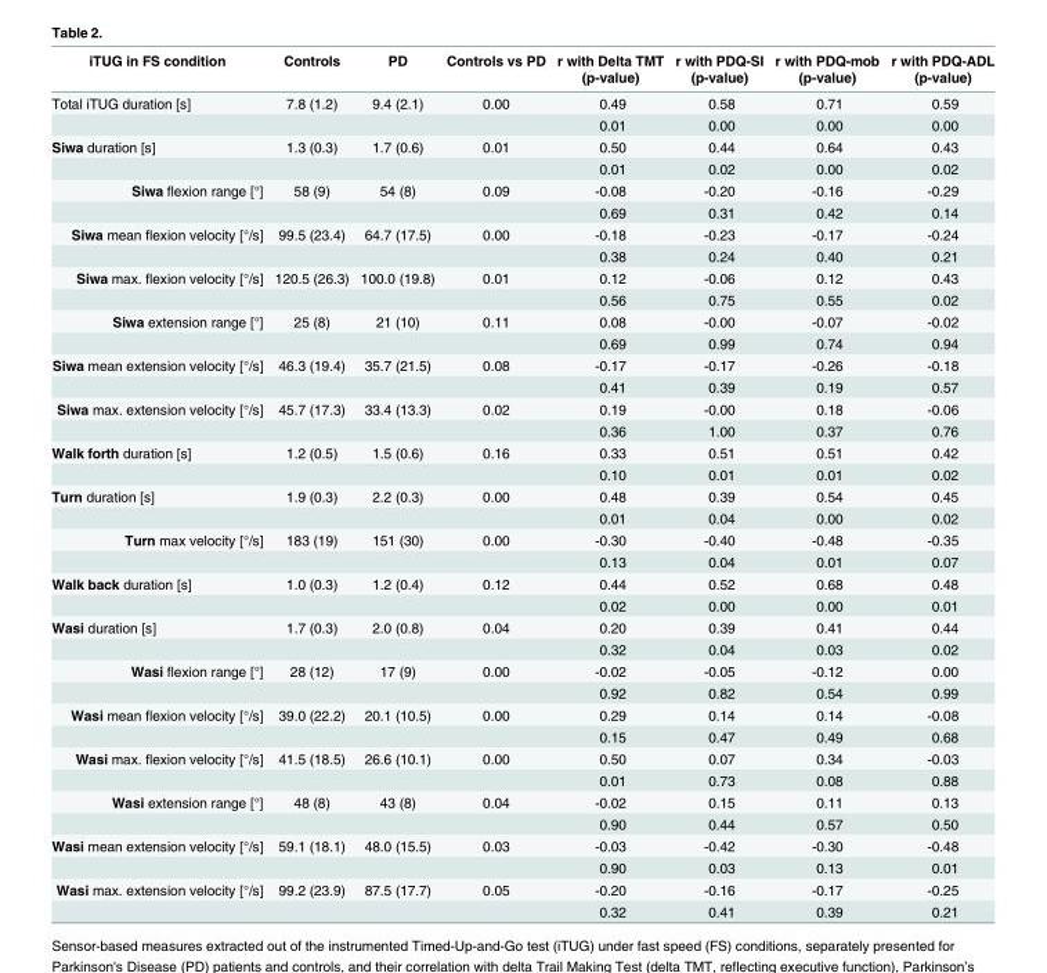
<table><thead><tr><td>iTUG in FS condition</td><td>Controls</td><td>PD</td><td>Controls vs PD</td><td>r with Delta TMT (p-value)</td><td>r with PDQ-SI (p-value)</td><td>r with PDQ-mob (p-value)</td><td>r with PDQ-ADL (p-value)</td></tr></thead><tbody><tr><td rowspan="2">Total iTUG duration [s]</td><td>7.8 (1.2)</td><td>9.4 (2.1)</td><td>0.00</td><td>0.49</td><td>0.58</td><td>0.71</td><td>0.59</td></tr><tr><td></td><td></td><td></td><td>0.01</td><td>0.00</td><td>0.00</td><td>0.00</td></tr><tr><td rowspan="2">Siwa duration [s]</td><td>1.3 (0.3)</td><td>1.7 (0.6)</td><td>0.01</td><td>0.50</td><td>0.44</td><td>0.64</td><td>0.43</td></tr><tr><td></td><td></td><td></td><td>0.01</td><td>0.02</td><td>0.00</td><td>0.02</td></tr><tr><td rowspan="2">Siwa flexion range [°]</td><td>58 (9)</td><td>54 (8)</td><td>0.09</td><td>-0.08</td><td>-0.20</td><td>-0.16</td><td>-0.29</td></tr><tr><td></td><td></td><td></td><td>0.69</td><td>0.31</td><td>0.42</td><td>0.14</td></tr><tr><td rowspan="2">Siwa mean flexion velocity [°/s]</td><td>99.5 (23.4)</td><td>64.7 (17.5)</td><td>0.00</td><td>-0.18</td><td>-0.23</td><td>-0.17</td><td>-0.24</td></tr><tr><td></td><td></td><td></td><td>0.38</td><td>0.24</td><td>0.40</td><td>0.21</td></tr><tr><td rowspan="2">Siwa max. flexion velocity [°/s]</td><td>120.5 (26.3)</td><td>100.0 (19.8)</td><td>0.01</td><td>0.12</td><td>-0.06</td><td>0.12</td><td>0.43</td></tr><tr><td></td><td></td><td></td><td>0.56</td><td>0.75</td><td>0.55</td><td>0.02</td></tr><tr><td rowspan="2">Siwa extension range [°]</td><td>25 (8)</td><td>21 (10)</td><td>0.11</td><td>0.08</td><td>-0.00</td><td>-0.07</td><td>-0.02</td></tr><tr><td></td><td></td><td></td><td>0.69</td><td>0.99</td><td>0.74</td><td>0.94</td></tr><tr><td rowspan="2">Siwa mean extension velocity [°/s]</td><td>46.3 (19.4)</td><td>35.7 (21.5)</td><td>0.08</td><td>-0.17</td><td>-0.17</td><td>-0.26</td><td>-0.18</td></tr><tr><td></td><td></td><td></td><td>0.41</td><td>0.39</td><td>0.19</td><td>0.57</td></tr><tr><td rowspan="2">Siwa max. extension velocity [°/s]</td><td>45.7 (17.3)</td><td>33.4 (13.3)</td><td>0.02</td><td>0.19</td><td>-0.00</td><td>0.18</td><td>-0.06</td></tr><tr><td></td><td></td><td></td><td>0.36</td><td>1.00</td><td>0.37</td><td>0.76</td></tr><tr><td rowspan="2">Walk forth duration [s]</td><td>1.2 (0.5)</td><td>1.5 (0.6)</td><td>0.16</td><td>0.33</td><td>0.51</td><td>0.51</td><td>0.42</td></tr><tr><td></td><td></td><td></td><td>0.10</td><td>0.01</td><td>0.01</td><td>0.02</td></tr><tr><td rowspan="2">Turn duration [s]</td><td>1.9 (0.3)</td><td>2.2 (0.3)</td><td>0.00</td><td>0.48</td><td>0.39</td><td>0.54</td><td>0.45</td></tr><tr><td></td><td></td><td></td><td>0.01</td><td>0.04</td><td>0.00</td><td>0.02</td></tr><tr><td rowspan="2">Turn max velocity [°/s]</td><td>183 (19)</td><td>151 (30)</td><td>0.00</td><td>-0.30</td><td>-0.40</td><td>-0.48</td><td>-0.35</td></tr><tr><td></td><td></td><td></td><td>0.13</td><td>0.04</td><td>0.01</td><td>0.07</td></tr><tr><td rowspan="2">Walk back duration [s]</td><td>1.0 (0.3)</td><td>1.2 (0.4)</td><td>0.12</td><td>0.44</td><td>0.52</td><td>0.68</td><td>0.48</td></tr><tr><td></td><td></td><td></td><td>0.02</td><td>0.00</td><td>0.00</td><td>0.01</td></tr><tr><td rowspan="2">Wasi duration [s]</td><td>1.7 (0.3)</td><td>2.0 (0.8)</td><td>0.04</td><td>0.20</td><td>0.39</td><td>0.41</td><td>0.44</td></tr><tr><td></td><td></td><td></td><td>0.32</td><td>0.04</td><td>0.03</td><td>0.02</td></tr><tr><td rowspan="2">Wasi flexion range [°]</td><td>28 (12)</td><td>17 (9)</td><td>0.00</td><td>-0.02</td><td>-0.05</td><td>-0.12</td><td>0.00</td></tr><tr><td></td><td></td><td></td><td>0.92</td><td>0.82</td><td>0.54</td><td>0.99</td></tr><tr><td rowspan="2">Wasi mean flexion velocity [°/s]</td><td>39.0 (22.2)</td><td>20.1 (10.5)</td><td>0.00</td><td>0.29</td><td>0.14</td><td>0.14</td><td>-0.08</td></tr><tr><td></td><td></td><td></td><td>0.15</td><td>0.47</td><td>0.49</td><td>0.68</td></tr><tr><td rowspan="2">Wasi max. flexion velocity [°/s]</td><td>41.5 (18.5)</td><td>26.6 (10.1)</td><td>0.00</td><td>0.50</td><td>0.07</td><td>0.34</td><td>-0.03</td></tr><tr><td></td><td></td><td></td><td>0.01</td><td>0.73</td><td>0.08</td><td>0.88</td></tr><tr><td rowspan="2">Wasi extension range [°]</td><td>48 (8)</td><td>43 (8)</td><td>0.04</td><td>-0.02</td><td>0.15</td><td>0.11</td><td>0.13</td></tr><tr><td></td><td></td><td></td><td>0.90</td><td>0.44</td><td>0.57</td><td>0.50</td></tr><tr><td rowspan="2">Wasi mean extension velocity [°/s]</td><td>59.1 (18.1)</td><td>48.0 (15.5)</td><td>0.03</td><td>-0.03</td><td>-0.42</td><td>-0.30</td><td>-0.48</td></tr><tr><td></td><td></td><td></td><td>0.90</td><td>0.03</td><td>0.13</td><td>0.01</td></tr><tr><td rowspan="2">Wasi max. extension velocity [°/s]</td><td>99.2 (23.9)</td><td>87.5 (17.7)</td><td>0.05</td><td>-0.20</td><td>-0.16</td><td>-0.17</td><td>-0.25</td></tr><tr><td></td><td></td><td></td><td>0.32</td><td>0.41</td><td>0.39</td><td>0.21</td></tr></tbody></table>